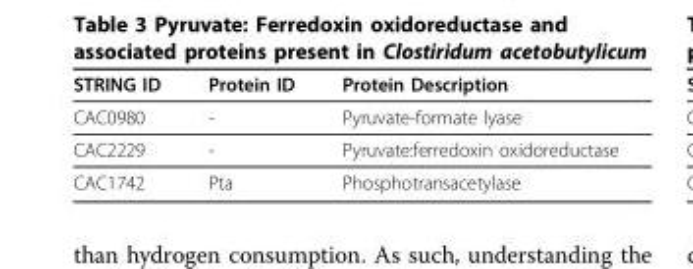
<table><thead><tr><td>STRING ID</td><td>Protein ID</td><td>Protein Description</td></tr></thead><tbody><tr><td>CAC0980</td><td>-</td><td>Pyruvate-formate lyase</td></tr><tr><td>CAC2229</td><td>-</td><td>Pyruvate:ferredoxin oxidoreductase</td></tr><tr><td>CAC1742</td><td>Pta</td><td>Phosphotransacetylase</td></tr></tbody></table>